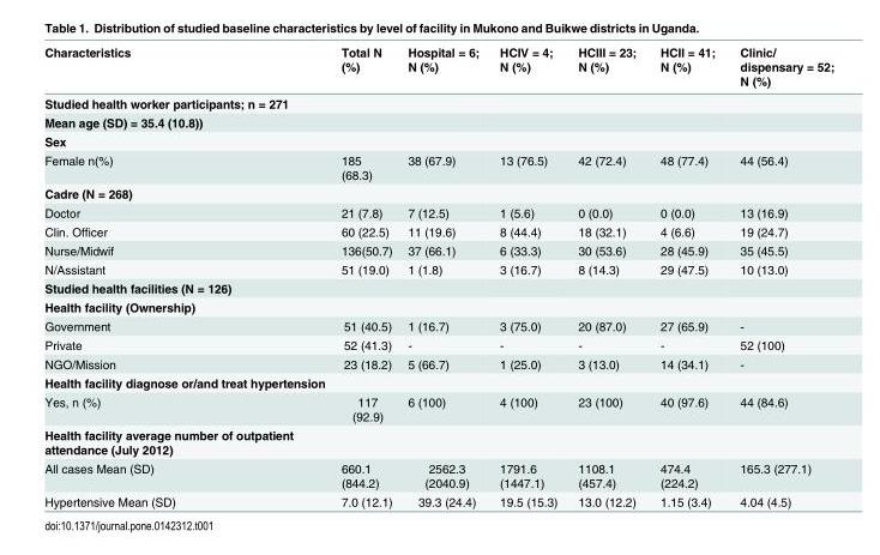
<table><thead><tr><td>Characteristics</td><td>Total N (%)</td><td>Hospital = 6; N (%)</td><td>HCIV = 4; N (%)</td><td>HCIII = 23; N (%)</td><td>HCII = 41; N (%)</td><td>Clinic/ dispensary = 52; N (%)</td></tr></thead><tbody><tr><td colspan="7">Studied health worker participants; n = 271</td></tr><tr><td colspan="7">Mean age (SD) = 35.4 (10.8))</td></tr><tr><td colspan="7">Sex</td></tr><tr><td>Female n(%)</td><td>185 (68.3)</td><td>38 (67.9)</td><td>13 (76.5)</td><td>42 (72.4)</td><td>48 (77.4)</td><td>44 (56.4)</td></tr><tr><td colspan="7">Cadre (N = 268)</td></tr><tr><td>Doctor</td><td>21 (7.8)</td><td>7 (12.5)</td><td>1 (5.6)</td><td>0 (0.0)</td><td>0 (0.0)</td><td>13 (16.9)</td></tr><tr><td>Clin. Officer</td><td>60 (22.5)</td><td>11 (19.6)</td><td>8 (44.4)</td><td>18 (32.1)</td><td>4 (6.6)</td><td>19 (24.7)</td></tr><tr><td>Nurse/Midwif</td><td>136(50.7)</td><td>37 (66.1)</td><td>6 (33.3)</td><td>30 (53.6)</td><td>28 (45.9)</td><td>35 (45.5)</td></tr><tr><td>N/Assistant</td><td>51 (19.0)</td><td>1 (1.8)</td><td>3 (16.7)</td><td>8 (14.3)</td><td>29 (47.5)</td><td>10 (13.0)</td></tr><tr><td colspan="7">Studied health facilities (N = 126)</td></tr><tr><td colspan="7">Health facility (Ownership)</td></tr><tr><td>Government</td><td>51 (40.5)</td><td>1 (16.7)</td><td>3 (75.0)</td><td>20 (87.0)</td><td>27 (65.9)</td><td>-</td></tr><tr><td>Private</td><td>52 (41.3)</td><td>-</td><td>-</td><td>-</td><td>-</td><td>52 (100)</td></tr><tr><td>NGO/Mission</td><td>23 (18.2)</td><td>5 (66.7)</td><td>1 (25.0)</td><td>3 (13.0)</td><td>14 (34.1)</td><td>-</td></tr><tr><td colspan="7">Health facility diagnose or/and treat hypertension</td></tr><tr><td>Yes, n (%)</td><td>117 (92.9)</td><td>6 (100)</td><td>4 (100)</td><td>23 (100)</td><td>40 (97.6)</td><td>44 (84.6)</td></tr><tr><td colspan="7">Health facility average number of outpatient attendance (July 2012)</td></tr><tr><td>All cases Mean (SD)</td><td>660.1 (844.2)</td><td>2562.3 (2040.9)</td><td>1791.6 (1447.1)</td><td>1108.1 (457.4)</td><td>474.4 (224.2)</td><td>165.3 (277.1)</td></tr><tr><td>Hypertensive Mean (SD)</td><td>7.0 (12.1)</td><td>39.3 (24.4)</td><td>19.5 (15.3)</td><td>13.0 (12.2)</td><td>1.15 (3.4)</td><td>4.04 (4.5)</td></tr></tbody></table>